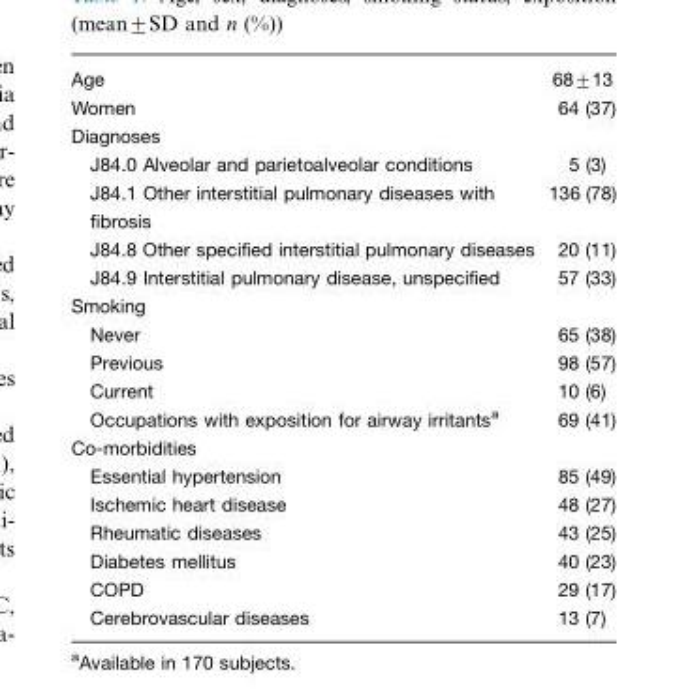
<table><tbody><tr><td>Age</td><td>68±13</td></tr><tr><td>Women</td><td>64 (37)</td></tr><tr><td colspan="2">Diagnoses</td></tr><tr><td>J84.0 Alveolar and parietoalveolar conditions</td><td>5 (3)</td></tr><tr><td>J84.1 Other interstitial pulmonary diseases with fibrosis</td><td>136 (78)</td></tr><tr><td>J84.8 Other specified interstitial pulmonary diseases</td><td>20 (11)</td></tr><tr><td>J84.9 Interstitial pulmonary disease, unspecified</td><td>57 (33)</td></tr><tr><td colspan="2">Smoking</td></tr><tr><td>Never</td><td>65 (38)</td></tr><tr><td>Previous</td><td>98 (57)</td></tr><tr><td>Current</td><td>10 (6)</td></tr><tr><td>Occupations with exposition for airway irritants<sup>a</sup></td><td>69 (41)</td></tr><tr><td colspan="2">Co-morbidities</td></tr><tr><td>Essential hypertension</td><td>85 (49)</td></tr><tr><td>Ischemic heart disease</td><td>48 (27)</td></tr><tr><td>Rheumatic diseases</td><td>43 (25)</td></tr><tr><td>Diabetes mellitus</td><td>40 (23)</td></tr><tr><td>COPD</td><td>29 (17)</td></tr><tr><td>Cerebrovascular diseases</td><td>13 (7)</td></tr></tbody></table>